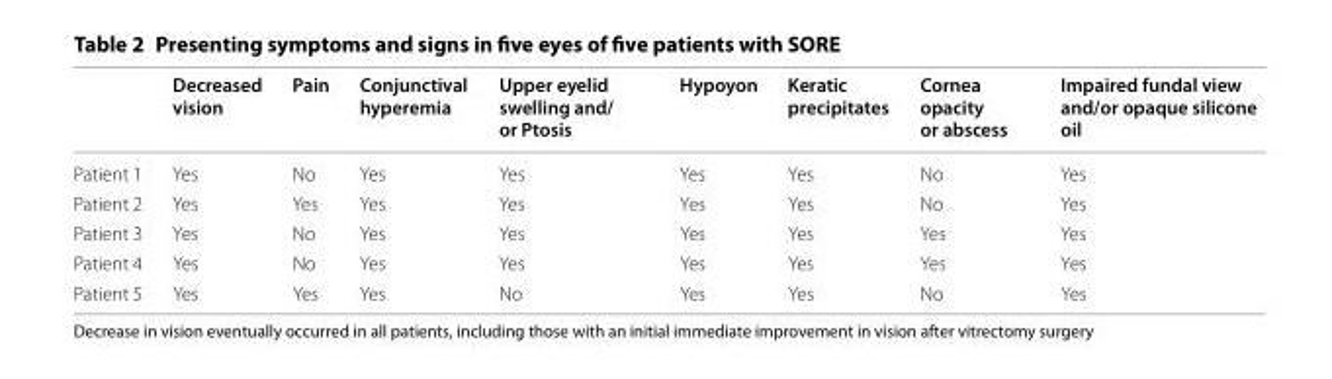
<table><thead><tr><td></td><td>Decreased vision</td><td>Pain</td><td>Conjunctival hyperemia</td><td>Upper eyelid swelling and/ or Ptosis</td><td>Hypoyon</td><td>Keratic precipitates</td><td>Cornea opacity or abscess</td><td>Impaired fundal view and/or opaque silicone oil</td></tr></thead><tbody><tr><td>Patient 1</td><td>Yes</td><td>No</td><td>Yes</td><td>Yes</td><td>Yes</td><td>Yes</td><td>No</td><td>Yes</td></tr><tr><td>Patient 2</td><td>Yes</td><td>Yes</td><td>Yes</td><td>Yes</td><td>Yes</td><td>Yes</td><td>No</td><td>Yes</td></tr><tr><td>Patient 3</td><td>Yes</td><td>No</td><td>Yes</td><td>Yes</td><td>Yes</td><td>Yes</td><td>Yes</td><td>Yes</td></tr><tr><td>Patient 4</td><td>Yes</td><td>No</td><td>Yes</td><td>Yes</td><td>Yes</td><td>Yes</td><td>Yes</td><td>Yes</td></tr><tr><td>Patient 5</td><td>Yes</td><td>Yes</td><td>Yes</td><td>No</td><td>Yes</td><td>Yes</td><td>No</td><td>Yes</td></tr></tbody></table>